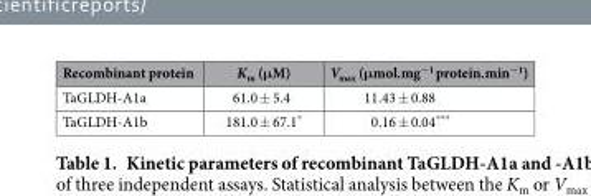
<table><thead><tr><td>Recombinant protein</td><td>K<sub>m</sub> (μM)</td><td>V<sub>max</sub> (μmol.mg<sup>−1</sup> protein.min<sup>−1</sup>)</td></tr></thead><tbody><tr><td>TaGLDH-A1a</td><td>61.0 ± 5.4</td><td>11.43 ± 0.88</td></tr><tr><td>TaGLDH-A1b</td><td>181.0 ± 67.1*</td><td>0.16 ± 0.04***</td></tr></tbody></table>